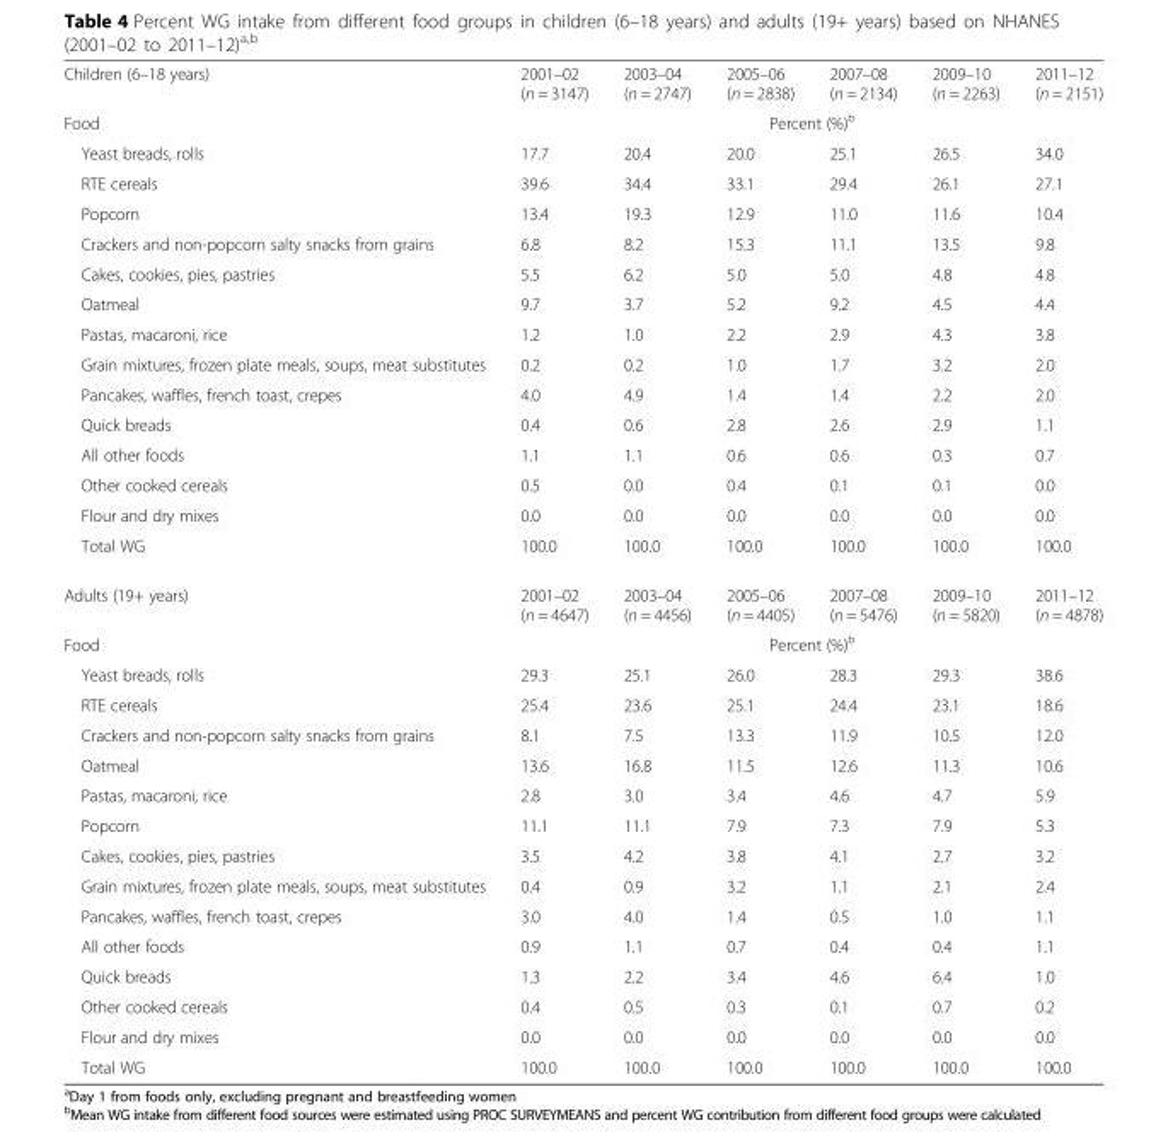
<table><tbody><tr><td>Children (6–18 years)</td><td>2001–02 (n = 3147)</td><td>2003–04 (n = 2747)</td><td>2005–06 (n = 2838)</td><td>2007–08 (n = 2134)</td><td>2009–10 (n = 2263)</td><td>2011–12 (n = 2151)</td></tr><tr><td>Food</td><td colspan="6">Percent (%)<sup>b</sup></td></tr><tr><td>Yeast breads, rolls</td><td>17.7</td><td>20.4</td><td>20.0</td><td>25.1</td><td>26.5</td><td>34.0</td></tr><tr><td>RTE cereals</td><td>39.6</td><td>34.4</td><td>33.1</td><td>29.4</td><td>26.1</td><td>27.1</td></tr><tr><td>Popcorn</td><td>13.4</td><td>19.3</td><td>12.9</td><td>11.0</td><td>11.6</td><td>10.4</td></tr><tr><td>Crackers and non-popcorn salty snacks from grains</td><td>6.8</td><td>8.2</td><td>15.3</td><td>11.1</td><td>13.5</td><td>9.8</td></tr><tr><td>Cakes, cookies, pies, pastries</td><td>5.5</td><td>6.2</td><td>5.0</td><td>5.0</td><td>4.8</td><td>4.8</td></tr><tr><td>Oatmeal</td><td>9.7</td><td>3.7</td><td>5.2</td><td>9.2</td><td>4.5</td><td>4.4</td></tr><tr><td>Pastas, macaroni, rice</td><td>1.2</td><td>1.0</td><td>2.2</td><td>2.9</td><td>4.3</td><td>3.8</td></tr><tr><td>Grain mixtures, frozen plate meals, soups, meat substitutes</td><td>0.2</td><td>0.2</td><td>1.0</td><td>1.7</td><td>3.2</td><td>2.0</td></tr><tr><td>Pancakes, waffles, french toast, crepes</td><td>4.0</td><td>4.9</td><td>1.4</td><td>1.4</td><td>2.2</td><td>2.0</td></tr><tr><td>Quick breads</td><td>0.4</td><td>0.6</td><td>2.8</td><td>2.6</td><td>2.9</td><td>1.1</td></tr><tr><td>All other foods</td><td>1.1</td><td>1.1</td><td>0.6</td><td>0.6</td><td>0.3</td><td>0.7</td></tr><tr><td>Other cooked cereals</td><td>0.5</td><td>0.0</td><td>0.4</td><td>0.1</td><td>0.1</td><td>0.0</td></tr><tr><td>Flour and dry mixes</td><td>0.0</td><td>0.0</td><td>0.0</td><td>0.0</td><td>0.0</td><td>0.0</td></tr><tr><td>Total WG</td><td>100.0</td><td>100.0</td><td>100.0</td><td>100.0</td><td>100.0</td><td>100.0</td></tr><tr><td>Adults (19+ years)</td><td>2001–02 (n = 4647)</td><td>2003–04 (n = 4456)</td><td>2005–06 (n = 4405)</td><td>2007–08 (n = 5476)</td><td>2009–10 (n = 5820)</td><td>2011–12 (n = 4878)</td></tr><tr><td>Food</td><td colspan="6">Percent (%)<sup>b</sup></td></tr><tr><td>Yeast breads, rolls</td><td>29.3</td><td>25.1</td><td>26.0</td><td>28.3</td><td>29.3</td><td>38.6</td></tr><tr><td>RTE cereals</td><td>25.4</td><td>23.6</td><td>25.1</td><td>24.4</td><td>23.1</td><td>18.6</td></tr><tr><td>Crackers and non-popcorn salty snacks from grains</td><td>8.1</td><td>7.5</td><td>13.3</td><td>11.9</td><td>10.5</td><td>12.0</td></tr><tr><td>Oatmeal</td><td>13.6</td><td>16.8</td><td>11.5</td><td>12.6</td><td>11.3</td><td>10.6</td></tr><tr><td>Pastas, macaroni, rice</td><td>2.8</td><td>3.0</td><td>3.4</td><td>4.6</td><td>4.7</td><td>5.9</td></tr><tr><td>Popcorn</td><td>11.1</td><td>11.1</td><td>7.9</td><td>7.3</td><td>7.9</td><td>5.3</td></tr><tr><td>Cakes, cookies, pies, pastries</td><td>3.5</td><td>4.2</td><td>3.8</td><td>4.1</td><td>2.7</td><td>3.2</td></tr><tr><td>Grain mixtures, frozen plate meals, soups, meat substitutes</td><td>0.4</td><td>0.9</td><td>3.2</td><td>1.1</td><td>2.1</td><td>2.4</td></tr><tr><td>Pancakes, waffles, french toast, crepes</td><td>3.0</td><td>4.0</td><td>1.4</td><td>0.5</td><td>1.0</td><td>1.1</td></tr><tr><td>All other foods</td><td>0.9</td><td>1.1</td><td>0.7</td><td>0.4</td><td>0.4</td><td>1.1</td></tr><tr><td>Quick breads</td><td>1.3</td><td>2.2</td><td>3.4</td><td>4.6</td><td>6.4</td><td>1.0</td></tr><tr><td>Other cooked cereals</td><td>0.4</td><td>0.5</td><td>0.3</td><td>0.1</td><td>0.7</td><td>0.2</td></tr><tr><td>Flour and dry mixes</td><td>0.0</td><td>0.0</td><td>0.0</td><td>0.0</td><td>0.0</td><td>0.0</td></tr><tr><td>Total WG</td><td>100.0</td><td>100.0</td><td>100.0</td><td>100.0</td><td>100.0</td><td>100.0</td></tr></tbody></table>